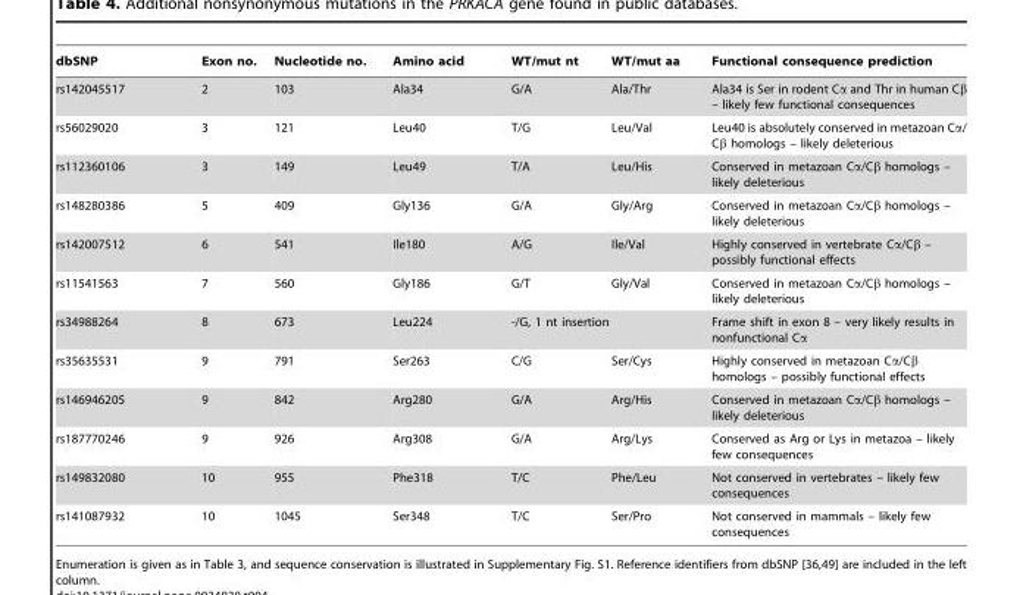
<table><thead><tr><td>dbSNP</td><td>Exon no.</td><td>Nucleotide no.</td><td>Amino acid</td><td>WT/mut nt</td><td>WT/mut aa</td><td>Functional consequence prediction</td></tr></thead><tbody><tr><td>rs142045517</td><td>2</td><td>103</td><td>Ala34</td><td>G/A</td><td>Ala/Thr</td><td>Ala34 is Ser in rodent Cα and Thr in human Cβ – likely few functional consequences</td></tr><tr><td>rs56029020</td><td>3</td><td>121</td><td>Leu40</td><td>T/G</td><td>Leu/Val</td><td>Leu40 is absolutely conserved in metazoan Cα/ Cβ homologs – likely deleterious</td></tr><tr><td>rs112360106</td><td>3</td><td>149</td><td>Leu49</td><td>T/A</td><td>Leu/His</td><td>Conserved in metazoan Cα/Cβ homologs – likely deleterious</td></tr><tr><td>rs148280386</td><td>5</td><td>409</td><td>Gly136</td><td>G/A</td><td>Gly/Arg</td><td>Conserved in metazoan Cα/Cβ homologs – likely deleterious</td></tr><tr><td>rs142007512</td><td>6</td><td>541</td><td>Ile180</td><td>A/G</td><td>Ile/Val</td><td>Highly conserved in vertebrate Cα/Cβ – possibly functional effects</td></tr><tr><td>rs11541563</td><td>7</td><td>560</td><td>Gly186</td><td>G/T</td><td>Gly/Val</td><td>Conserved in metazoan Cα/Cβ homologs – likely deleterious</td></tr><tr><td>rs34988264</td><td>8</td><td>673</td><td>Leu224</td><td>-/G, 1 nt insertion</td><td></td><td>Frame shift in exon 8 – very likely results in nonfunctional Cα</td></tr><tr><td>rs35635531</td><td>9</td><td>791</td><td>Ser263</td><td>C/G</td><td>Ser/Cys</td><td>Highly conserved in metazoan Cα/Cβ homologs – possibly functional effects</td></tr><tr><td>rs146946205</td><td>9</td><td>842</td><td>Arg280</td><td>G/A</td><td>Arg/His</td><td>Conserved in metazoan Cα/Cβ homologs – likely deleterious</td></tr><tr><td>rs187770246</td><td>9</td><td>926</td><td>Arg308</td><td>G/A</td><td>Arg/Lys</td><td>Conserved as Arg or Lys in metazoa – likely few consequences</td></tr><tr><td>rs149832080</td><td>10</td><td>955</td><td>Phe318</td><td>T/C</td><td>Phe/Leu</td><td>Not conserved in vertebrates – likely few consequences</td></tr><tr><td>rs141087932</td><td>10</td><td>1045</td><td>Ser348</td><td>T/C</td><td>Ser/Pro</td><td>Not conserved in mammals – likely few consequences</td></tr></tbody></table>